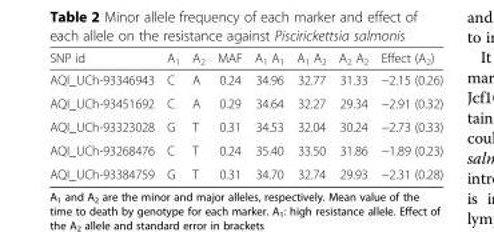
<table><thead><tr><td>SNP id</td><td>A<sub>1</sub></td><td>A<sub>2</sub></td><td>MAF</td><td>A<sub>1</sub> A<sub>1</sub></td><td>A<sub>1</sub> A<sub>2</sub></td><td>A<sub>2</sub> A<sub>2</sub></td><td>Effect (A<sub>2</sub>)</td></tr></thead><tbody><tr><td>AQI_UCh-93346943</td><td>C</td><td>A</td><td>0.24</td><td>34.96</td><td>32.77</td><td>31.33</td><td>−2.15 (0.26)</td></tr><tr><td>AQI_UCh-93451692</td><td>C</td><td>A</td><td>0.29</td><td>34.64</td><td>32.27</td><td>29.34</td><td>−2.91 (0.32)</td></tr><tr><td>AQI_UCh-93323028</td><td>G</td><td>T</td><td>0.31</td><td>34.53</td><td>32.04</td><td>30.24</td><td>−2.73 (0.33)</td></tr><tr><td>AQI_UCh-93268476</td><td>C</td><td>T</td><td>0.24</td><td>35.40</td><td>33.50</td><td>31.86</td><td>−1.89 (0.23)</td></tr><tr><td>AQI_UCh-93384759</td><td>G</td><td>T</td><td>0.31</td><td>34.70</td><td>32.74</td><td>29.93</td><td>−2.31 (0.28)</td></tr></tbody></table>